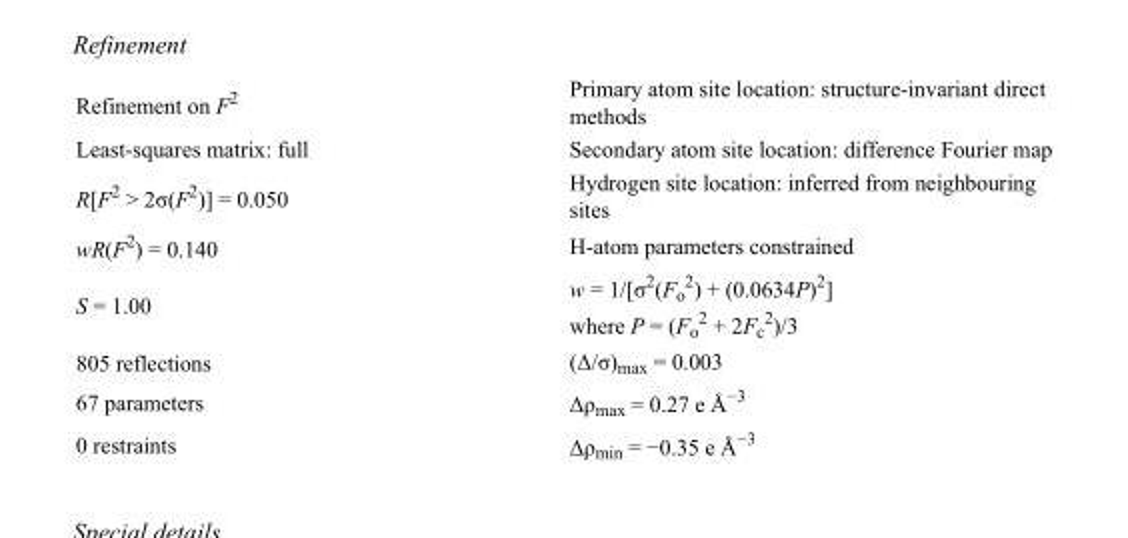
<table><tbody><tr><td>Refinement on F<sup>2</sup></td><td>Primary atom site location: structure-invariant direct methods</td></tr><tr><td>Least-squares matrix: full</td><td>Secondary atom site location: difference Fourier map</td></tr><tr><td>R[F<sup>2</sup> &gt; 2σ(F<sup>2</sup>)] = 0.050</td><td>Hydrogen site location: inferred from neighbouring sites</td></tr><tr><td>wR(F<sup>2</sup>) = 0.140</td><td>H-atom parameters constrained</td></tr><tr><td>S = 1.00</td><td>w = 1/[σ<sup>2</sup>(F<sub>o</sub> <sup>2</sup>) + (0.0634P)<sup>2</sup>] where P = (F<sub>o</sub> <sup>2</sup> + 2F<sub>c</sub> <sup>2</sup>)/3</td></tr><tr><td>805 reflections</td><td>(Δ/σ)<sub>max</sub> = 0.003</td></tr><tr><td>67 parameters</td><td>Δρ<sub>max</sub> = 0.27 e Å<sup>−3</sup></td></tr><tr><td>0 restraints</td><td>Δρ<sub>min</sub> = −0.35 e Å<sup>−3</sup></td></tr></tbody></table>